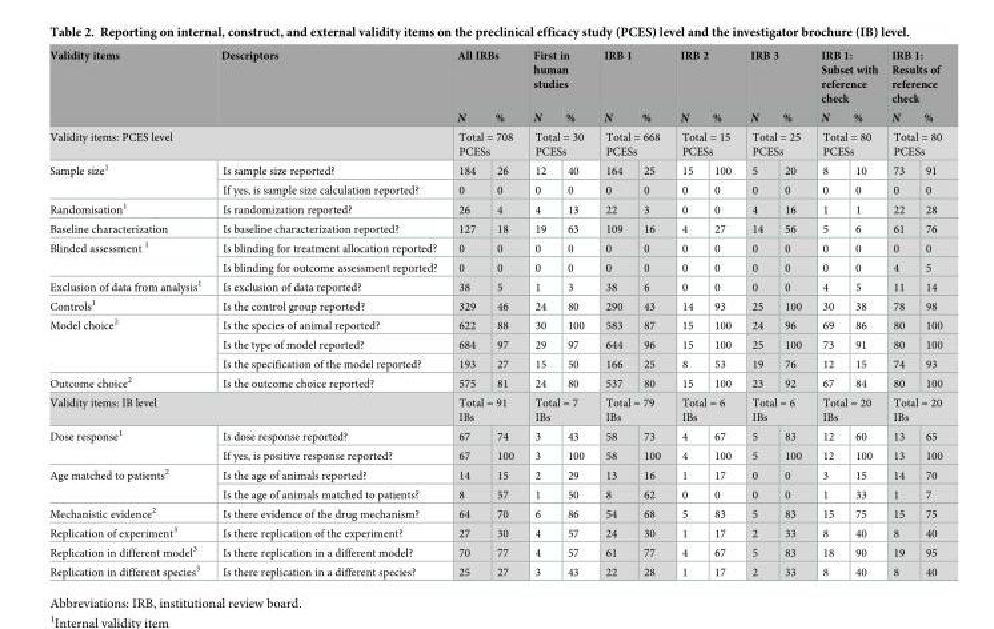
<table><thead><tr><td rowspan="2">Validity items</td><td rowspan="2">Descriptors</td><td colspan="2">All IRBs</td><td colspan="2">First in human studies</td><td colspan="2">IRB 1</td><td colspan="2">IRB 2</td><td colspan="2">IRB 3</td><td colspan="2">IRB 1: Subset with reference check</td><td colspan="2">IRB 1: Results of reference check</td></tr><tr><td>N</td><td>%</td><td>N</td><td>%</td><td>N</td><td>%</td><td>N</td><td>%</td><td>N</td><td>%</td><td>N</td><td>%</td><td>N</td><td>%</td></tr></thead><tbody><tr><td colspan="2">Validity items: PCES level</td><td colspan="2">Total = 708 PCESs</td><td colspan="2">Total = 30 PCESs</td><td colspan="2">Total = 668 PCESs</td><td colspan="2">Total = 15 PCESs</td><td colspan="2">Total = 25 PCESs</td><td colspan="2">Total = 80 PCESs</td><td colspan="2">Total = 80 PCESs</td></tr><tr><td rowspan="2">Sample size<sup>1</sup></td><td>Is sample size reported?</td><td>184</td><td>26</td><td>12</td><td>40</td><td>164</td><td>25</td><td>15</td><td>100</td><td>5</td><td>20</td><td>8</td><td>10</td><td>73</td><td>91</td></tr><tr><td>If yes, is sample size calculation reported?</td><td>0</td><td>0</td><td>0</td><td>0</td><td>0</td><td>0</td><td>0</td><td>0</td><td>0</td><td>0</td><td>0</td><td>0</td><td>0</td><td>0</td></tr><tr><td>Randomisation<sup>1</sup></td><td>Is randomization reported?</td><td>26</td><td>4</td><td>4</td><td>13</td><td>22</td><td>3</td><td>0</td><td>0</td><td>4</td><td>16</td><td>1</td><td>1</td><td>22</td><td>28</td></tr><tr><td>Baseline characterization</td><td>Is baseline characterization reported?</td><td>127</td><td>18</td><td>19</td><td>63</td><td>109</td><td>16</td><td>4</td><td>27</td><td>14</td><td>56</td><td>5</td><td>6</td><td>61</td><td>76</td></tr><tr><td rowspan="2">Blinded assessment <sup>1</sup></td><td>Is blinding for treatment allocation reported?</td><td>0</td><td>0</td><td>0</td><td>0</td><td>0</td><td>0</td><td>0</td><td>0</td><td>0</td><td>0</td><td>0</td><td>0</td><td>0</td><td>0</td></tr><tr><td>Is blinding for outcome assessment reported?</td><td>0</td><td>0</td><td>0</td><td>0</td><td>0</td><td>0</td><td>0</td><td>0</td><td>0</td><td>0</td><td>0</td><td>0</td><td>4</td><td>5</td></tr><tr><td>Exclusion of data from analysis<sup>1</sup></td><td>Is exclusion of data reported?</td><td>38</td><td>5</td><td>1</td><td>3</td><td>38</td><td>6</td><td>0</td><td>0</td><td>0</td><td>0</td><td>4</td><td>5</td><td>11</td><td>14</td></tr><tr><td>Controls<sup>1</sup></td><td>Is the control group reported?</td><td>329</td><td>46</td><td>24</td><td>80</td><td>290</td><td>43</td><td>14</td><td>93</td><td>25</td><td>100</td><td>30</td><td>38</td><td>78</td><td>98</td></tr><tr><td rowspan="3">Model choice<sup>2</sup></td><td>Is the species of animal reported?</td><td>622</td><td>88</td><td>30</td><td>100</td><td>583</td><td>87</td><td>15</td><td>100</td><td>24</td><td>96</td><td>69</td><td>86</td><td>80</td><td>100</td></tr><tr><td>Is the type of model reported?</td><td>684</td><td>97</td><td>29</td><td>97</td><td>644</td><td>96</td><td>15</td><td>100</td><td>25</td><td>100</td><td>73</td><td>91</td><td>80</td><td>100</td></tr><tr><td>Is the specification of the model reported?</td><td>193</td><td>27</td><td>15</td><td>50</td><td>166</td><td>25</td><td>8</td><td>53</td><td>19</td><td>76</td><td>12</td><td>15</td><td>74</td><td>93</td></tr><tr><td>Outcome choice<sup>2</sup></td><td>Is the outcome choice reported?</td><td>575</td><td>81</td><td>24</td><td>80</td><td>537</td><td>80</td><td>15</td><td>100</td><td>23</td><td>92</td><td>67</td><td>84</td><td>80</td><td>100</td></tr><tr><td colspan="2">Validity items: IB level</td><td colspan="2">Total = 91 IBs</td><td colspan="2">Total = 7 IBs</td><td colspan="2">Total = 79 IBs</td><td colspan="2">Total = 6 IBs</td><td colspan="2">Total = 6 IBs</td><td colspan="2">Total = 20 IBs</td><td colspan="2">Total = 20 IBs</td></tr><tr><td rowspan="2">Dose response<sup>1</sup></td><td>Is dose response reported?</td><td>67</td><td>74</td><td>3</td><td>43</td><td>58</td><td>73</td><td>4</td><td>67</td><td>5</td><td>83</td><td>12</td><td>60</td><td>13</td><td>65</td></tr><tr><td>If yes, is positive response reported?</td><td>67</td><td>100</td><td>3</td><td>100</td><td>58</td><td>100</td><td>4</td><td>100</td><td>5</td><td>100</td><td>12</td><td>100</td><td>13</td><td>100</td></tr><tr><td rowspan="2">Age matched to patients<sup>2</sup></td><td>Is the age of animals reported?</td><td>14</td><td>15</td><td>2</td><td>29</td><td>13</td><td>16</td><td>1</td><td>17</td><td>0</td><td>0</td><td>3</td><td>15</td><td>14</td><td>70</td></tr><tr><td>Is the age of animals matched to patients?</td><td>8</td><td>57</td><td>1</td><td>50</td><td>8</td><td>62</td><td>0</td><td>0</td><td>0</td><td>0</td><td>1</td><td>33</td><td>1</td><td>7</td></tr><tr><td>Mechanistic evidence<sup>2</sup></td><td>Is there evidence of the drug mechanism?</td><td>64</td><td>70</td><td>6</td><td>86</td><td>54</td><td>68</td><td>5</td><td>83</td><td>5</td><td>83</td><td>15</td><td>75</td><td>15</td><td>75</td></tr><tr><td>Replication of experiment<sup>3</sup></td><td>Is there replication of the experiment?</td><td>27</td><td>30</td><td>4</td><td>57</td><td>24</td><td>30</td><td>1</td><td>17</td><td>2</td><td>33</td><td>8</td><td>40</td><td>8</td><td>40</td></tr><tr><td>Replication in different model<sup>3</sup></td><td>Is there replication in a different model?</td><td>70</td><td>77</td><td>4</td><td>57</td><td>61</td><td>77</td><td>4</td><td>67</td><td>5</td><td>83</td><td>18</td><td>90</td><td>19</td><td>95</td></tr><tr><td>Replication in different species<sup>3</sup></td><td>Is there replication in a different species?</td><td>25</td><td>27</td><td>3</td><td>43</td><td>22</td><td>28</td><td>1</td><td>17</td><td>2</td><td>33</td><td>8</td><td>40</td><td>8</td><td>40</td></tr></tbody></table>